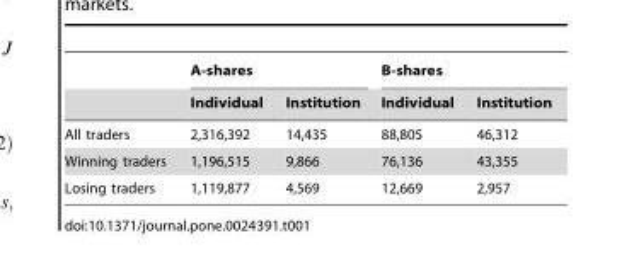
<table><thead><tr><td rowspan="2"></td><td colspan="2">A-shares</td><td colspan="2">B-shares</td></tr><tr><td>Individual</td><td>Institution</td><td>Individual</td><td>Institution</td></tr></thead><tbody><tr><td>All traders</td><td>2,316,392</td><td>14,435</td><td>88,805</td><td>46,312</td></tr><tr><td>Winning traders</td><td>1,196,515</td><td>9,866</td><td>76,136</td><td>43,355</td></tr><tr><td>Losing traders</td><td>1,119,877</td><td>4,569</td><td>12,669</td><td>2,957</td></tr></tbody></table>